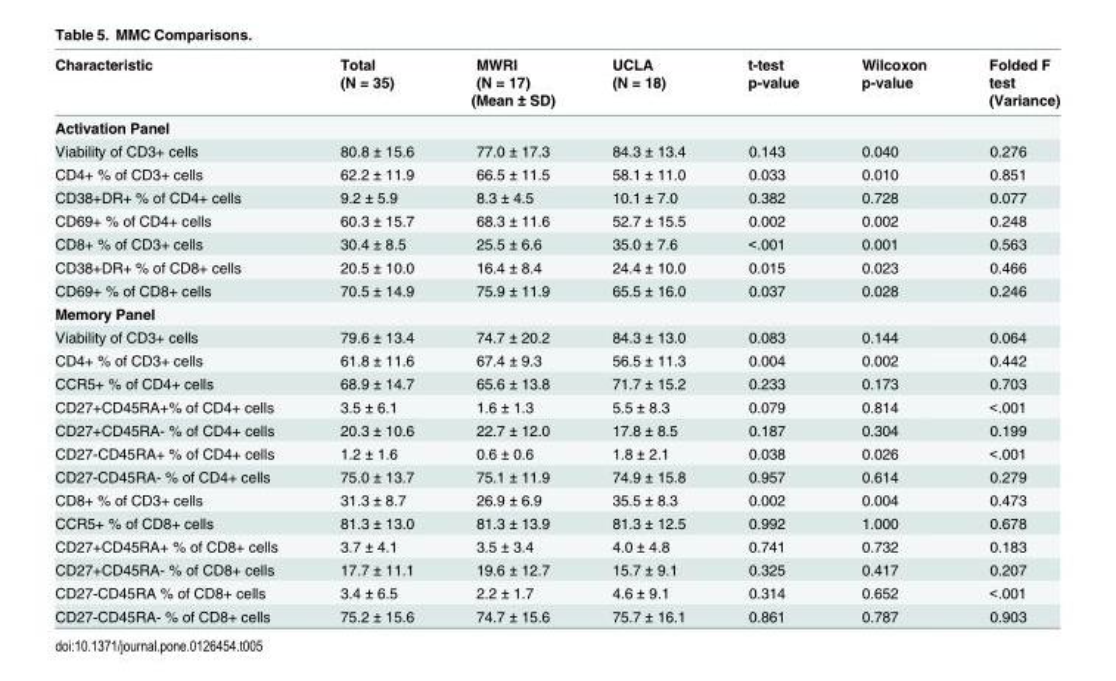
<table><thead><tr><td rowspan="3">Characteristic</td><td rowspan="2">Total (N = 35)</td><td rowspan="2">MWRI (N = 17)</td><td rowspan="2">UCLA (N = 18)</td><td rowspan="3">t-test p-value</td><td rowspan="3">Wilcoxon p-value</td><td rowspan="3">Folded F test (Variance)</td></tr><tr></tr><tr><td colspan="3">(Mean ± SD)</td></tr></thead><tbody><tr><td colspan="7">Activation Panel</td></tr><tr><td>Viability of CD3+ cells</td><td>80.8 ± 15.6</td><td>77.0 ± 17.3</td><td>84.3 ± 13.4</td><td>0.143</td><td>0.040</td><td>0.276</td></tr><tr><td>CD4+ % of CD3+ cells</td><td>62.2 ± 11.9</td><td>66.5 ± 11.5</td><td>58.1 ± 11.0</td><td>0.033</td><td>0.010</td><td>0.851</td></tr><tr><td>CD38+DR+ % of CD4+ cells</td><td>9.2 ± 5.9</td><td>8.3 ± 4.5</td><td>10.1 ± 7.0</td><td>0.382</td><td>0.728</td><td>0.077</td></tr><tr><td>CD69+ % of CD4+ cells</td><td>60.3 ± 15.7</td><td>68.3 ± 11.6</td><td>52.7 ± 15.5</td><td>0.002</td><td>0.002</td><td>0.248</td></tr><tr><td>CD8+ % of CD3+ cells</td><td>30.4 ± 8.5</td><td>25.5 ± 6.6</td><td>35.0 ± 7.6</td><td>&lt;.001</td><td>0.001</td><td>0.563</td></tr><tr><td>CD38+DR+ % of CD8+ cells</td><td>20.5 ± 10.0</td><td>16.4 ± 8.4</td><td>24.4 ± 10.0</td><td>0.015</td><td>0.023</td><td>0.466</td></tr><tr><td>CD69+ % of CD8+ cells</td><td>70.5 ± 14.9</td><td>75.9 ± 11.9</td><td>65.5 ± 16.0</td><td>0.037</td><td>0.028</td><td>0.246</td></tr><tr><td colspan="7">Memory Panel</td></tr><tr><td>Viability of CD3+ cells</td><td>79.6 ± 13.4</td><td>74.7 ± 20.2</td><td>84.3 ± 13.0</td><td>0.083</td><td>0.144</td><td>0.064</td></tr><tr><td>CD4+ % of CD3+ cells</td><td>61.8 ± 11.6</td><td>67.4 ± 9.3</td><td>56.5 ± 11.3</td><td>0.004</td><td>0.002</td><td>0.442</td></tr><tr><td>CCR5+ % of CD4+ cells</td><td>68.9 ± 14.7</td><td>65.6 ± 13.8</td><td>71.7 ± 15.2</td><td>0.233</td><td>0.173</td><td>0.703</td></tr><tr><td>CD27+CD45RA+% of CD4+ cells</td><td>3.5 ± 6.1</td><td>1.6 ± 1.3</td><td>5.5 ± 8.3</td><td>0.079</td><td>0.814</td><td>&lt;.001</td></tr><tr><td>CD27+CD45RA- % of CD4+ cells</td><td>20.3 ± 10.6</td><td>22.7 ± 12.0</td><td>17.8 ± 8.5</td><td>0.187</td><td>0.304</td><td>0.199</td></tr><tr><td>CD27-CD45RA+ % of CD4+ cells</td><td>1.2 ± 1.6</td><td>0.6 ± 0.6</td><td>1.8 ± 2.1</td><td>0.038</td><td>0.026</td><td>&lt;.001</td></tr><tr><td>CD27-CD45RA- % of CD4+ cells</td><td>75.0 ± 13.7</td><td>75.1 ± 11.9</td><td>74.9 ± 15.8</td><td>0.957</td><td>0.614</td><td>0.279</td></tr><tr><td>CD8+ % of CD3+ cells</td><td>31.3 ± 8.7</td><td>26.9 ± 6.9</td><td>35.5 ± 8.3</td><td>0.002</td><td>0.004</td><td>0.473</td></tr><tr><td>CCR5+ % of CD8+ cells</td><td>81.3 ± 13.0</td><td>81.3 ± 13.9</td><td>81.3 ± 12.5</td><td>0.992</td><td>1.000</td><td>0.678</td></tr><tr><td>CD27+CD45RA+ % of CD8+ cells</td><td>3.7 ± 4.1</td><td>3.5 ± 3.4</td><td>4.0 ± 4.8</td><td>0.741</td><td>0.732</td><td>0.183</td></tr><tr><td>CD27+CD45RA- % of CD8+ cells</td><td>17.7 ± 11.1</td><td>19.6 ± 12.7</td><td>15.7 ± 9.1</td><td>0.325</td><td>0.417</td><td>0.207</td></tr><tr><td>CD27-CD45RA % of CD8+ cells</td><td>3.4 ± 6.5</td><td>2.2 ± 1.7</td><td>4.6 ± 9.1</td><td>0.314</td><td>0.652</td><td>&lt;.001</td></tr><tr><td>CD27-CD45RA- % of CD8+ cells</td><td>75.2 ± 15.6</td><td>74.7 ± 15.6</td><td>75.7 ± 16.1</td><td>0.861</td><td>0.787</td><td>0.903</td></tr></tbody></table>